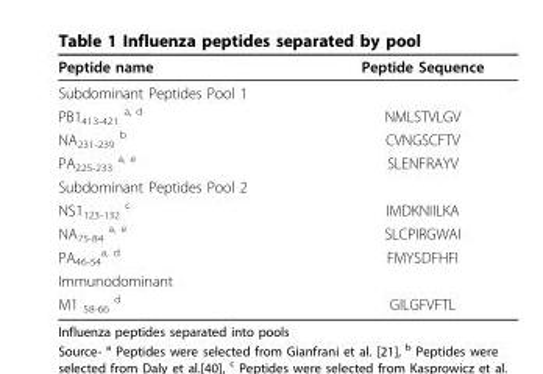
<table><thead><tr><td>Peptide name</td><td>Peptide Sequence</td></tr></thead><tbody><tr><td colspan="2">Subdominant Peptides Pool 1</td></tr><tr><td>PB1<sub>413-421</sub> <sup>a, d</sup></td><td>NMLSTVLGV</td></tr><tr><td>NA<sub>231-239</sub> <sup>b</sup></td><td>CVNGSCFTV</td></tr><tr><td>PA<sub>225-233</sub> <sup>a, e</sup></td><td>SLENFRAYV</td></tr><tr><td colspan="2">Subdominant Peptides Pool 2</td></tr><tr><td>NS1<sub>123-132</sub> <sup>c</sup></td><td>IMDKNIILKA</td></tr><tr><td>NA<sub>75-84</sub> <sup>a, e</sup></td><td>SLCPIRGWAI</td></tr><tr><td>PA<sub>46-54</sub> <sup>a, d</sup></td><td>FMYSDFHFI</td></tr><tr><td colspan="2">Immunodominant</td></tr><tr><td>M1 <sub>58-66</sub> <sup>d</sup></td><td>GILGFVFTL</td></tr></tbody></table>